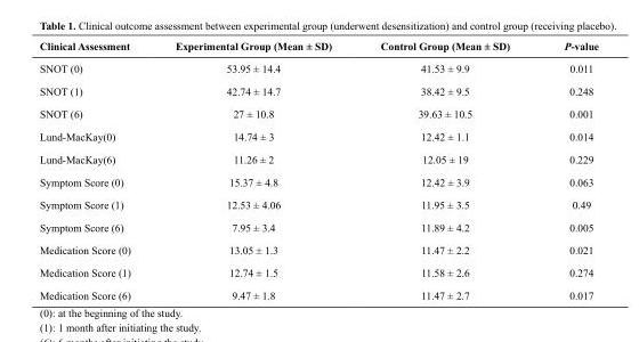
<table><thead><tr><td>Clinical Assessment</td><td>Experimental Group (Mean ± SD)</td><td>Control Group (Mean ± SD)</td><td>P-value</td></tr></thead><tbody><tr><td>SNOT (0)</td><td>53.95 ± 14.4</td><td>41.53 ± 9.9</td><td>0.011</td></tr><tr><td>SNOT (1)</td><td>42.74 ± 14.7</td><td>38.42 ± 9.5</td><td>0.248</td></tr><tr><td>SNOT (6)</td><td>27 ± 10.8</td><td>39.63 ± 10.5</td><td>0.001</td></tr><tr><td>Lund-MacKay(0)</td><td>14.74 ± 3</td><td>12.42 ± 1.1</td><td>0.014</td></tr><tr><td>Lund-MacKay(6)</td><td>11.26 ± 2</td><td>12.05 ± 19</td><td>0.229</td></tr><tr><td>Symptom Score (0)</td><td>15.37 ± 4.8</td><td>12.42 ± 3.9</td><td>0.063</td></tr><tr><td>Symptom Score (1)</td><td>12.53 ± 4.06</td><td>11.95 ± 3.5</td><td>0.49</td></tr><tr><td>Symptom Score (6)</td><td>7.95 ± 3.4</td><td>11.89 ± 4.2</td><td>0.005</td></tr><tr><td>Medication Score (0)</td><td>13.05 ± 1.3</td><td>11.47 ± 2.2</td><td>0.021</td></tr><tr><td>Medication Score (1)</td><td>12.74 ± 1.5</td><td>11.58 ± 2.6</td><td>0.274</td></tr><tr><td>Medication Score (6)</td><td>9.47 ± 1.8</td><td>11.47 ± 2.7</td><td>0.017</td></tr></tbody></table>